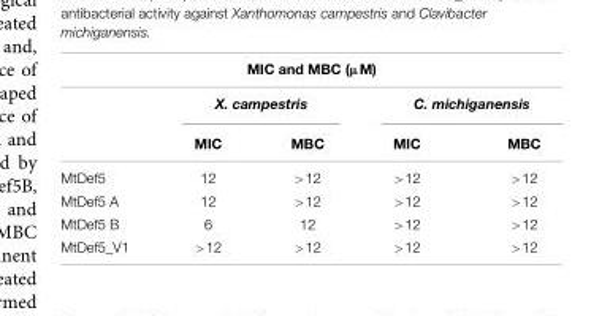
<table><thead><tr><td colspan="5">MIC and MBC (µM)</td></tr><tr><td rowspan="2"></td><td colspan="2">X. campestris</td><td colspan="2">C. michiganensis</td></tr><tr><td>MIC</td><td>MBC</td><td>MIC</td><td>MBC</td></tr></thead><tbody><tr><td>MtDef5</td><td>12</td><td>&gt;12</td><td>&gt;12</td><td>&gt;12</td></tr><tr><td>MtDef5 A</td><td>12</td><td>&gt;12</td><td>&gt;12</td><td>&gt;12</td></tr><tr><td>MtDef5 B</td><td>6</td><td>12</td><td>&gt;12</td><td>&gt;12</td></tr><tr><td>MtDef5_V1</td><td>&gt;12</td><td>&gt;12</td><td>&gt;12</td><td>&gt;12</td></tr></tbody></table>